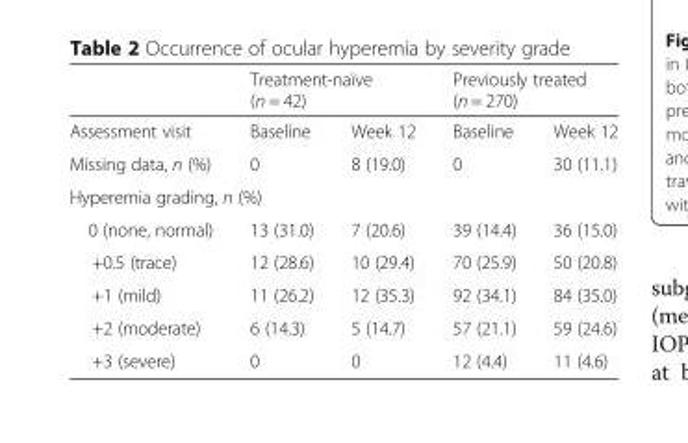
<table><thead><tr><td rowspan="2">Assessment visit</td><td colspan="2">Treatment-naïve (n = 42)</td><td colspan="2">Previously treated (n = 270)</td></tr><tr><td>Baseline</td><td>Week 12</td><td>Baseline</td><td>Week 12</td></tr></thead><tbody><tr><td>Missing data, n (%)</td><td>0</td><td>8 (19.0)</td><td>0</td><td>30 (11.1)</td></tr><tr><td colspan="5">Hyperemia grading, n (%)</td></tr><tr><td>0 (none, normal)</td><td>13 (31.0)</td><td>7 (20.6)</td><td>39 (14.4)</td><td>36 (15.0)</td></tr><tr><td>+0.5 (trace)</td><td>12 (28.6)</td><td>10 (29.4)</td><td>70 (25.9)</td><td>50 (20.8)</td></tr><tr><td>+1 (mild)</td><td>11 (26.2)</td><td>12 (35.3)</td><td>92 (34.1)</td><td>84 (35.0)</td></tr><tr><td>+2 (moderate)</td><td>6 (14.3)</td><td>5 (14.7)</td><td>57 (21.1)</td><td>59 (24.6)</td></tr><tr><td>+3 (severe)</td><td>0</td><td>0</td><td>12 (4.4)</td><td>11 (4.6)</td></tr></tbody></table>